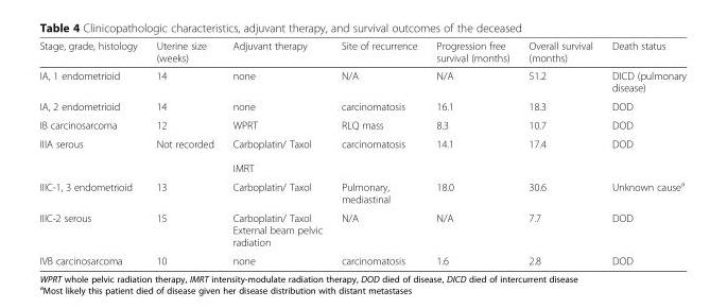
<table><thead><tr><td>Stage, grade, histology</td><td>Uterine size (weeks)</td><td>Adjuvant therapy</td><td>Site of recurrence</td><td>Progression free survival (months)</td><td>Overall survival (months)</td><td>Death status</td></tr></thead><tbody><tr><td>IA, 1 endometrioid</td><td>14</td><td>none</td><td>N/A</td><td>N/A</td><td>51.2</td><td>DICD (pulmonary disease)</td></tr><tr><td>IA, 2 endometrioid</td><td>14</td><td>none</td><td>carcinomatosis</td><td>16.1</td><td>18.3</td><td>DOD</td></tr><tr><td>IB carcinosarcoma</td><td>12</td><td>WPRT</td><td>RLQ mass</td><td>8.3</td><td>10.7</td><td>DOD</td></tr><tr><td>IIIA serous</td><td>Not recorded</td><td>Carboplatin/ Taxol IMRT</td><td>carcinomatosis</td><td>14.1</td><td>17.4</td><td>DOD</td></tr><tr><td>IIIC-1, 3 endometrioid</td><td>13</td><td>Carboplatin/ Taxol</td><td>Pulmonary, mediastinal</td><td>18.0</td><td>30.6</td><td>Unknown cause<sup>a</sup></td></tr><tr><td>IIIC-2 serous</td><td>15</td><td>Carboplatin/ Taxol External beam pelvic radiation</td><td>N/A</td><td>N/A</td><td>7.7</td><td>DOD</td></tr><tr><td>IVB carcinosarcoma</td><td>10</td><td>none</td><td>carcinomatosis</td><td>1.6</td><td>2.8</td><td>DOD</td></tr></tbody></table>